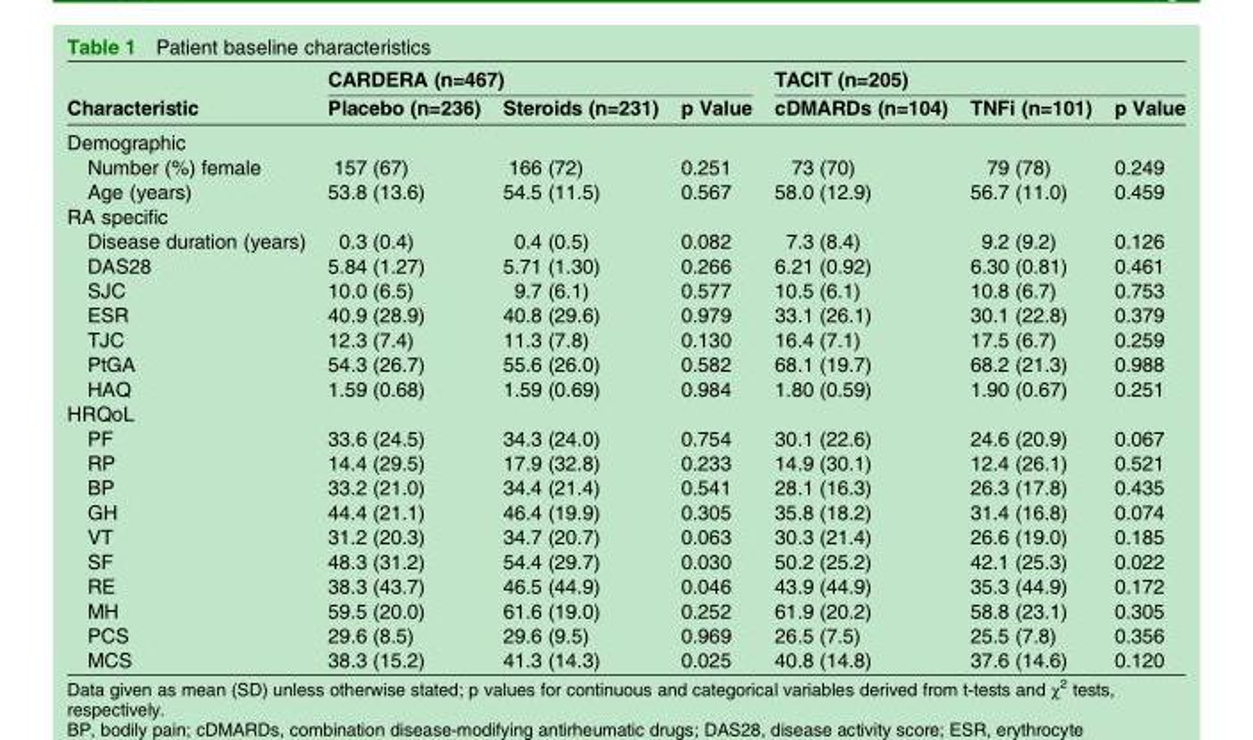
<table><thead><tr><td rowspan="2">Characteristic</td><td colspan="3">CARDERA (n=467)</td><td colspan="3">TACIT (n=205)</td></tr><tr><td>Placebo (n=236)</td><td>Steroids (n=231)</td><td>p Value</td><td>cDMARDs (n=104)</td><td>TNFi (n=101)</td><td>p Value</td></tr></thead><tbody><tr><td colspan="7">Demographic</td></tr><tr><td>Number (%) female</td><td>157 (67)</td><td>166 (72)</td><td>0.251</td><td>73 (70)</td><td>79 (78)</td><td>0.249</td></tr><tr><td>Age (years)</td><td>53.8 (13.6)</td><td>54.5 (11.5)</td><td>0.567</td><td>58.0 (12.9)</td><td>56.7 (11.0)</td><td>0.459</td></tr><tr><td colspan="7">RA specific</td></tr><tr><td>Disease duration (years)</td><td>0.3 (0.4)</td><td>0.4 (0.5)</td><td>0.082</td><td>7.3 (8.4)</td><td>9.2 (9.2)</td><td>0.126</td></tr><tr><td>DAS28</td><td>5.84 (1.27)</td><td>5.71 (1.30)</td><td>0.266</td><td>6.21 (0.92)</td><td>6.30 (0.81)</td><td>0.461</td></tr><tr><td>SJC</td><td>10.0 (6.5)</td><td>9.7 (6.1)</td><td>0.577</td><td>10.5 (6.1)</td><td>10.8 (6.7)</td><td>0.753</td></tr><tr><td>ESR</td><td>40.9 (28.9)</td><td>40.8 (29.6)</td><td>0.979</td><td>33.1 (26.1)</td><td>30.1 (22.8)</td><td>0.379</td></tr><tr><td>TJC</td><td>12.3 (7.4)</td><td>11.3 (7.8)</td><td>0.130</td><td>16.4 (7.1)</td><td>17.5 (6.7)</td><td>0.259</td></tr><tr><td>PtGA</td><td>54.3 (26.7)</td><td>55.6 (26.0)</td><td>0.582</td><td>68.1 (19.7)</td><td>68.2 (21.3)</td><td>0.988</td></tr><tr><td>HAQ</td><td>1.59 (0.68)</td><td>1.59 (0.69)</td><td>0.984</td><td>1.80 (0.59)</td><td>1.90 (0.67)</td><td>0.251</td></tr><tr><td colspan="7">HRQoL</td></tr><tr><td>PF</td><td>33.6 (24.5)</td><td>34.3 (24.0)</td><td>0.754</td><td>30.1 (22.6)</td><td>24.6 (20.9)</td><td>0.067</td></tr><tr><td>RP</td><td>14.4 (29.5)</td><td>17.9 (32.8)</td><td>0.233</td><td>14.9 (30.1)</td><td>12.4 (26.1)</td><td>0.521</td></tr><tr><td>BP</td><td>33.2 (21.0)</td><td>34.4 (21.4)</td><td>0.541</td><td>28.1 (16.3)</td><td>26.3 (17.8)</td><td>0.435</td></tr><tr><td>GH</td><td>44.4 (21.1)</td><td>46.4 (19.9)</td><td>0.305</td><td>35.8 (18.2)</td><td>31.4 (16.8)</td><td>0.074</td></tr><tr><td>VT</td><td>31.2 (20.3)</td><td>34.7 (20.7)</td><td>0.063</td><td>30.3 (21.4)</td><td>26.6 (19.0)</td><td>0.185</td></tr><tr><td>SF</td><td>48.3 (31.2)</td><td>54.4 (29.7)</td><td>0.030</td><td>50.2 (25.2)</td><td>42.1 (25.3)</td><td>0.022</td></tr><tr><td>RE</td><td>38.3 (43.7)</td><td>46.5 (44.9)</td><td>0.046</td><td>43.9 (44.9)</td><td>35.3 (44.9)</td><td>0.172</td></tr><tr><td>MH</td><td>59.5 (20.0)</td><td>61.6 (19.0)</td><td>0.252</td><td>61.9 (20.2)</td><td>58.8 (23.1)</td><td>0.305</td></tr><tr><td>PCS</td><td>29.6 (8.5)</td><td>29.6 (9.5)</td><td>0.969</td><td>26.5 (7.5)</td><td>25.5 (7.8)</td><td>0.356</td></tr><tr><td>MCS</td><td>38.3 (15.2)</td><td>41.3 (14.3)</td><td>0.025</td><td>40.8 (14.8)</td><td>37.6 (14.6)</td><td>0.120</td></tr></tbody></table>